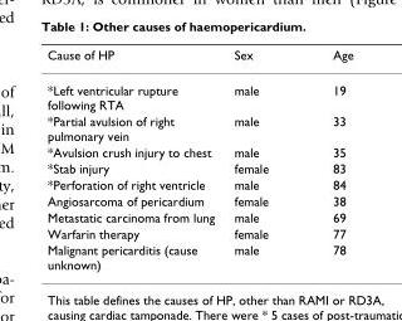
<table><thead><tr><td>Cause of HP</td><td>Sex</td><td>Age</td></tr></thead><tbody><tr><td>*Left ventricular rupture following RTA</td><td>male</td><td>19</td></tr><tr><td>*Partial avulsion of right pulmonary vein</td><td>male</td><td>33</td></tr><tr><td>*Avulsion crush injury to chest</td><td>male</td><td>35</td></tr><tr><td>*Stab injury</td><td>female</td><td>83</td></tr><tr><td>*Perforation of right ventricle</td><td>male</td><td>84</td></tr><tr><td>Angiosarcoma of pericardium</td><td>female</td><td>38</td></tr><tr><td>Metastatic carcinoma from lung</td><td>male</td><td>69</td></tr><tr><td>Warfarin therapy</td><td>female</td><td>77</td></tr><tr><td>Malignant pericarditis (cause unknown)</td><td>male</td><td>78</td></tr></tbody></table>